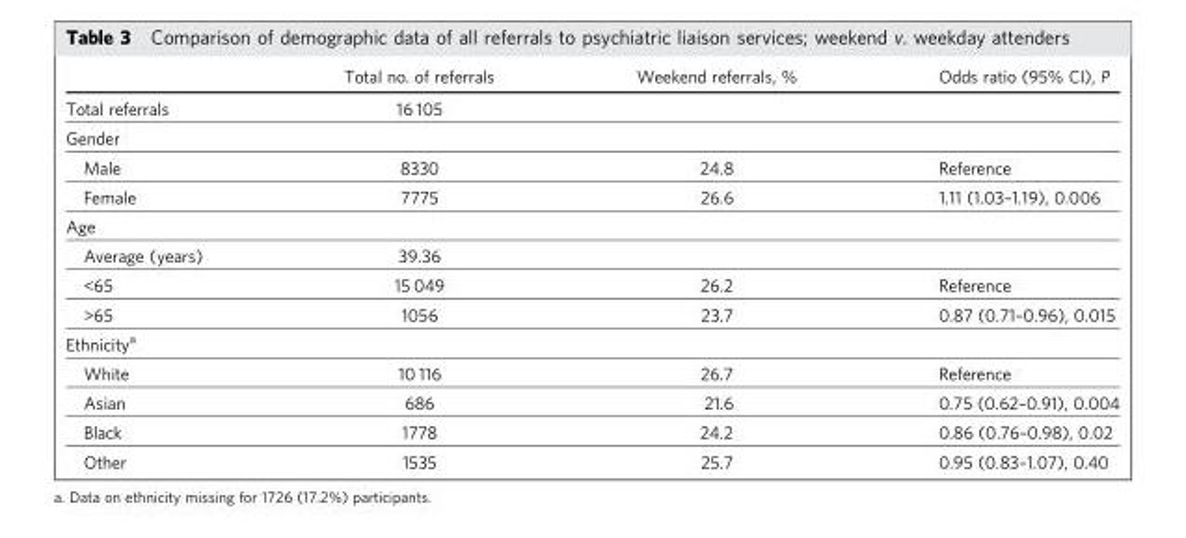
<table><thead><tr><td></td><td>Total no. of referrals</td><td>Weekend referrals, %</td><td>Odds ratio (95% CI), P</td></tr></thead><tbody><tr><td>Total referrals</td><td>16 105</td><td></td><td></td></tr><tr><td colspan="4">Gender</td></tr><tr><td>Male</td><td>8330</td><td>24.8</td><td>Reference</td></tr><tr><td>Female</td><td>7775</td><td>26.6</td><td>1.11 (1.03–1.19), 0.006</td></tr><tr><td colspan="4">Age</td></tr><tr><td>Average (years)</td><td>39.36</td><td></td><td></td></tr><tr><td>&lt;65</td><td>15 049</td><td>26.2</td><td>Reference</td></tr><tr><td>&gt;65</td><td>1056</td><td>23.7</td><td>0.87 (0.71–0.96), 0.015</td></tr><tr><td colspan="4">Ethnicity<sup>a</sup></td></tr><tr><td>White</td><td>10 116</td><td>26.7</td><td>Reference</td></tr><tr><td>Asian</td><td>686</td><td>21.6</td><td>0.75 (0.62–0.91), 0.004</td></tr><tr><td>Black</td><td>1778</td><td>24.2</td><td>0.86 (0.76–0.98), 0.02</td></tr><tr><td>Other</td><td>1535</td><td>25.7</td><td>0.95 (0.83–1.07), 0.40</td></tr></tbody></table>